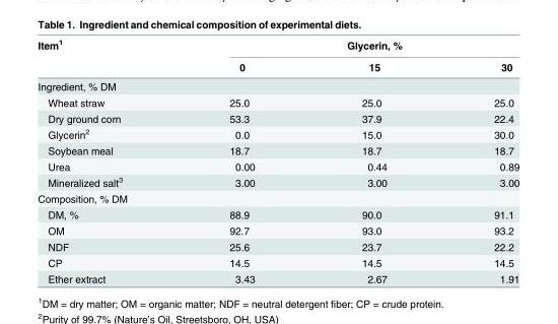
<table><thead><tr><td rowspan="2">Item<sup>1</sup></td><td colspan="3">Glycerin, %</td></tr><tr><td>0</td><td>15</td><td>30</td></tr></thead><tbody><tr><td colspan="4">Ingredient, % DM</td></tr><tr><td>Wheat straw</td><td>25.0</td><td>25.0</td><td>25.0</td></tr><tr><td>Dry ground corn</td><td>53.3</td><td>37.9</td><td>22.4</td></tr><tr><td>Glycerin<sup>2</sup></td><td>0.0</td><td>15.0</td><td>30.0</td></tr><tr><td>Soybean meal</td><td>18.7</td><td>18.7</td><td>18.7</td></tr><tr><td>Urea</td><td>0.00</td><td>0.44</td><td>0.89</td></tr><tr><td>Mineralized salt<sup>3</sup></td><td>3.00</td><td>3.00</td><td>3.00</td></tr><tr><td colspan="4">Composition, % DM</td></tr><tr><td>DM, %</td><td>88.9</td><td>90.0</td><td>91.1</td></tr><tr><td>OM</td><td>92.7</td><td>93.0</td><td>93.2</td></tr><tr><td>NDF</td><td>25.6</td><td>23.7</td><td>22.2</td></tr><tr><td>CP</td><td>14.5</td><td>14.5</td><td>14.5</td></tr><tr><td>Ether extract</td><td>3.43</td><td>2.67</td><td>1.91</td></tr></tbody></table>